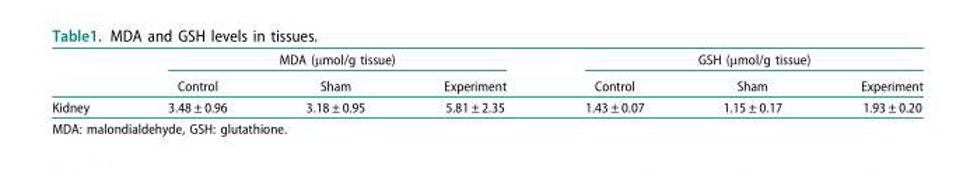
<table><thead><tr><td rowspan="2"></td><td colspan="3">MDA (µmol/g tissue)</td><td colspan="3">GSH (µmol/g tissue)</td></tr><tr><td>Control</td><td>Sham</td><td>Experiment</td><td>Control</td><td>Sham</td><td>Experiment</td></tr></thead><tbody><tr><td>Kidney</td><td>3.48 ± 0.96</td><td>3.18 ± 0.95</td><td>5.81 ± 2.35</td><td>1.43 ± 0.07</td><td>1.15 ± 0.17</td><td>1.93 ± 0.20</td></tr></tbody></table>